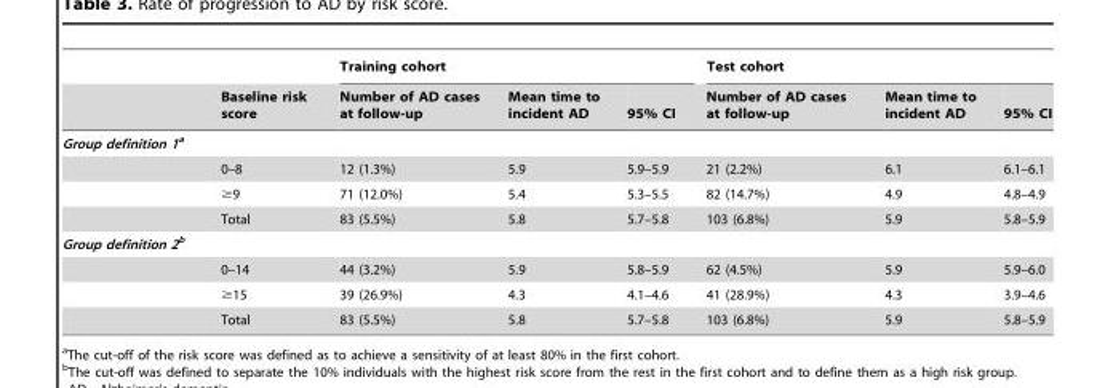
<table><thead><tr><td rowspan="2"></td><td rowspan="2">Baseline risk score</td><td colspan="3">Training cohort</td><td colspan="3">Test cohort</td></tr><tr><td>Number of AD cases at follow-up</td><td>Mean time to incident AD</td><td>95% CI</td><td>Number of AD cases at follow-up</td><td>Mean time to incident AD</td><td>95% CI</td></tr></thead><tbody><tr><td colspan="8">Group definition 1a</td></tr><tr><td></td><td>0–8</td><td>12 (1.3%)</td><td>5.9</td><td>5.9–5.9</td><td>21 (2.2%)</td><td>6.1</td><td>6.1–6.1</td></tr><tr><td></td><td>≥9</td><td>71 (12.0%)</td><td>5.4</td><td>5.3–5.5</td><td>82 (14.7%)</td><td>4.9</td><td>4.8–4.9</td></tr><tr><td></td><td>Total</td><td>83 (5.5%)</td><td>5.8</td><td>5.7–5.8</td><td>103 (6.8%)</td><td>5.9</td><td>5.8–5.9</td></tr><tr><td colspan="8">Group definition 2b</td></tr><tr><td></td><td>0–14</td><td>44 (3.2%)</td><td>5.9</td><td>5.8–5.9</td><td>62 (4.5%)</td><td>5.9</td><td>5.9–6.0</td></tr><tr><td></td><td>≥15</td><td>39 (26.9%)</td><td>4.3</td><td>4.1–4.6</td><td>41 (28.9%)</td><td>4.3</td><td>3.9–4.6</td></tr><tr><td></td><td>Total</td><td>83 (5.5%)</td><td>5.8</td><td>5.7–5.8</td><td>103 (6.8%)</td><td>5.9</td><td>5.8–5.9</td></tr></tbody></table>